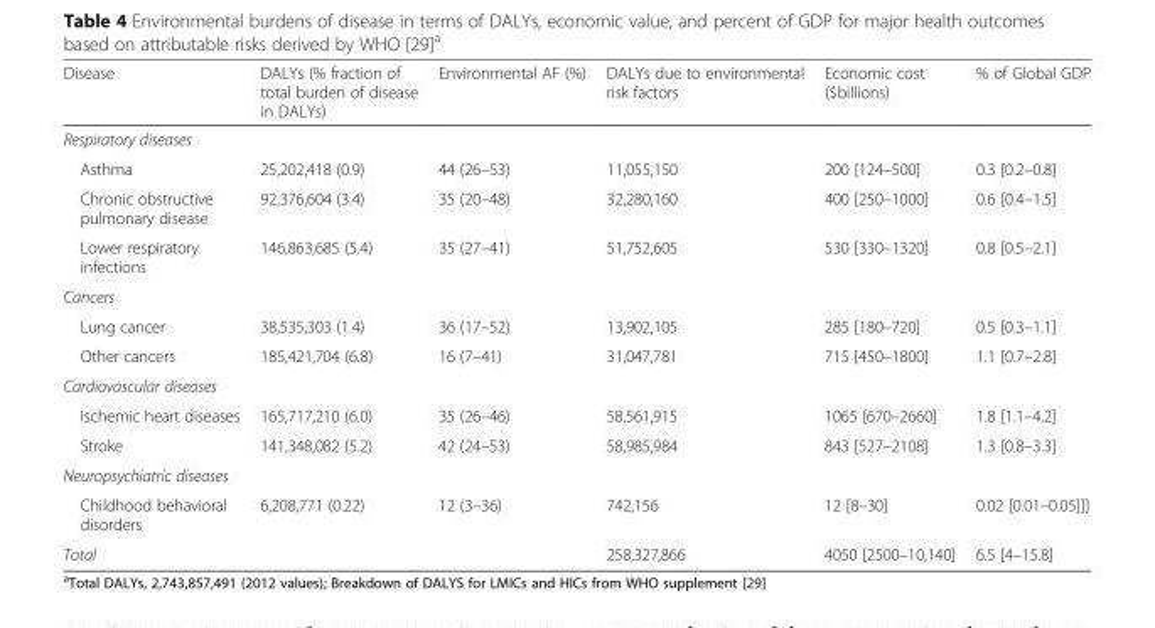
<table><thead><tr><td>Disease</td><td>DALYs (% fraction of total burden of disease in DALYs)</td><td>Environmental AF (%)</td><td>DALYs due to environmental risk factors</td><td>Economic cost ($billions)</td><td>% of Global GDP</td></tr></thead><tbody><tr><td colspan="6">Respiratory diseases</td></tr><tr><td>Asthma</td><td>25,202,418 (0.9)</td><td>44 (26–53)</td><td>11,055,150</td><td>200 [124–500]</td><td>0.3 [0.2–0.8]</td></tr><tr><td>Chronic obstructive pulmonary disease</td><td>92,376,604 (3.4)</td><td>35 (20–48)</td><td>32,280,160</td><td>400 [250–1000]</td><td>0.6 [0.4–1.5]</td></tr><tr><td>Lower respiratory infections</td><td>146,863,685 (5.4)</td><td>35 (27–41)</td><td>51,752,605</td><td>530 [330–1320]</td><td>0.8 [0.5–2.1]</td></tr><tr><td colspan="6">Cancers</td></tr><tr><td>Lung cancer</td><td>38,535,303 (1.4)</td><td>36 (17–52)</td><td>13,902,105</td><td>285 [180–720]</td><td>0.5 [0.3–1.1]</td></tr><tr><td>Other cancers</td><td>185,421,704 (6.8)</td><td>16 (7–41)</td><td>31,047,781</td><td>715 [450–1800]</td><td>1.1 [0.7–2.8]</td></tr><tr><td colspan="6">Cardiovascular diseases</td></tr><tr><td>Ischemic heart diseases</td><td>165,717,210 (6.0)</td><td>35 (26–46)</td><td>58,561,915</td><td>1065 [670–2660]</td><td>1.8 [1.1–4.2]</td></tr><tr><td>Stroke</td><td>141,348,082 (5.2)</td><td>42 (24–53)</td><td>58,985,984</td><td>843 [527–2108]</td><td>1.3 [0.8–3.3]</td></tr><tr><td colspan="6">Neuropsychiatric diseases</td></tr><tr><td>Childhood behavioral disorders</td><td>6,208,771 (0.22)</td><td>12 (3–36)</td><td>742,156</td><td>12 [8–30]</td><td>0.02 [0.01–0.05]]]</td></tr><tr><td>Total</td><td></td><td></td><td>258,327,866</td><td>4050 [2500–10,140]</td><td>6.5 [4–15.8]</td></tr></tbody></table>